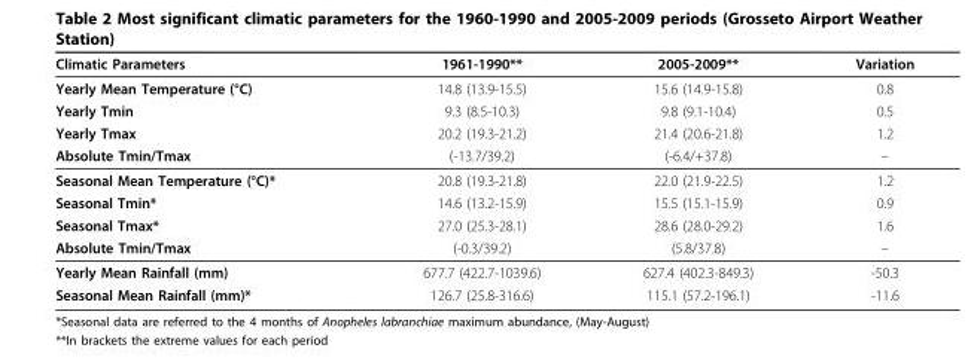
<table><thead><tr><td>Climatic Parameters</td><td>1961-1990**</td><td>2005-2009**</td><td>Variation</td></tr></thead><tbody><tr><td>Yearly Mean Temperature (°C)</td><td>14.8 (13.9-15.5)</td><td>15.6 (14.9-15.8)</td><td>0.8</td></tr><tr><td>Yearly Tmin</td><td>9.3 (8.5-10.3)</td><td>9.8 (9.1-10.4)</td><td>0.5</td></tr><tr><td>Yearly Tmax</td><td>20.2 (19.3-21.2)</td><td>21.4 (20.6-21.8)</td><td>1.2</td></tr><tr><td>Absolute Tmin/Tmax</td><td>(-13.7/39.2)</td><td>(-6.4/+37.8)</td><td>–</td></tr><tr><td>Seasonal Mean Temperature (°C)*</td><td>20.8 (19.3-21.8)</td><td>22.0 (21.9-22.5)</td><td>1.2</td></tr><tr><td>Seasonal Tmin*</td><td>14.6 (13.2-15.9)</td><td>15.5 (15.1-15.9)</td><td>0.9</td></tr><tr><td>Seasonal Tmax*</td><td>27.0 (25.3-28.1)</td><td>28.6 (28.0-29.2)</td><td>1.6</td></tr><tr><td>Absolute Tmin/Tmax</td><td>(-0.3/39.2)</td><td>(5.8/37.8)</td><td>–</td></tr><tr><td>Yearly Mean Rainfall (mm)</td><td>677.7 (422.7-1039.6)</td><td>627.4 (402.3-849.3)</td><td>-50.3</td></tr><tr><td>Seasonal Mean Rainfall (mm)*</td><td>126.7 (25.8-316.6)</td><td>115.1 (57.2-196.1)</td><td>-11.6</td></tr></tbody></table>